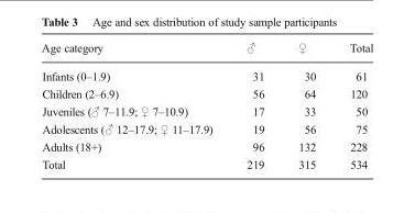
<table><thead><tr><td>Age category</td><td>♂</td><td>♀</td><td>Total</td></tr></thead><tbody><tr><td>Infants (0–1.9)</td><td>31</td><td>30</td><td>61</td></tr><tr><td>Children (2–6.9)</td><td>56</td><td>64</td><td>120</td></tr><tr><td>Juveniles (♂ 7–11.9; ♀ 7–10.9)</td><td>17</td><td>33</td><td>50</td></tr><tr><td>Adolescents (♂ 12–17.9; ♀ 11–17.9)</td><td>19</td><td>56</td><td>75</td></tr><tr><td>Adults (18+)</td><td>96</td><td>132</td><td>228</td></tr><tr><td>Total</td><td>219</td><td>315</td><td>534</td></tr></tbody></table>